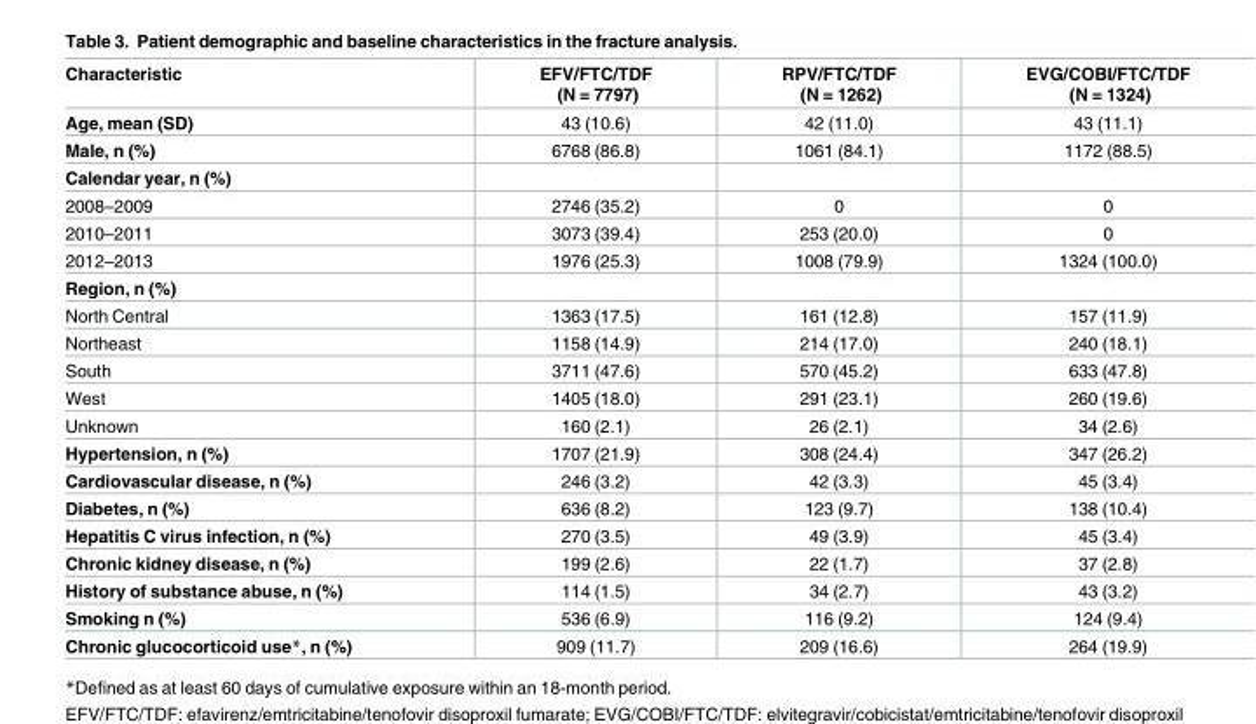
<table><thead><tr><td>Characteristic</td><td>EFV/FTC/TDF (N = 7797)</td><td>RPV/FTC/TDF (N = 1262)</td><td>EVG/COBI/FTC/TDF (N = 1324)</td></tr></thead><tbody><tr><td>Age, mean (SD)</td><td>43 (10.6)</td><td>42 (11.0)</td><td>43 (11.1)</td></tr><tr><td>Male, n (%)</td><td>6768 (86.8)</td><td>1061 (84.1)</td><td>1172 (88.5)</td></tr><tr><td colspan="4">Calendar year, n (%)</td></tr><tr><td>2008–2009</td><td>2746 (35.2)</td><td>0</td><td>0</td></tr><tr><td>2010–2011</td><td>3073 (39.4)</td><td>253 (20.0)</td><td>0</td></tr><tr><td>2012–2013</td><td>1976 (25.3)</td><td>1008 (79.9)</td><td>1324 (100.0)</td></tr><tr><td colspan="4">Region, n (%)</td></tr><tr><td>North Central</td><td>1363 (17.5)</td><td>161 (12.8)</td><td>157 (11.9)</td></tr><tr><td>Northeast</td><td>1158 (14.9)</td><td>214 (17.0)</td><td>240 (18.1)</td></tr><tr><td>South</td><td>3711 (47.6)</td><td>570 (45.2)</td><td>633 (47.8)</td></tr><tr><td>West</td><td>1405 (18.0)</td><td>291 (23.1)</td><td>260 (19.6)</td></tr><tr><td>Unknown</td><td>160 (2.1)</td><td>26 (2.1)</td><td>34 (2.6)</td></tr><tr><td>Hypertension, n (%)</td><td>1707 (21.9)</td><td>308 (24.4)</td><td>347 (26.2)</td></tr><tr><td>Cardiovascular disease, n (%)</td><td>246 (3.2)</td><td>42 (3.3)</td><td>45 (3.4)</td></tr><tr><td>Diabetes, n (%)</td><td>636 (8.2)</td><td>123 (9.7)</td><td>138 (10.4)</td></tr><tr><td>Hepatitis C virus infection, n (%)</td><td>270 (3.5)</td><td>49 (3.9)</td><td>45 (3.4)</td></tr><tr><td>Chronic kidney disease, n (%)</td><td>199 (2.6)</td><td>22 (1.7)</td><td>37 (2.8)</td></tr><tr><td>History of substance abuse, n (%)</td><td>114 (1.5)</td><td>34 (2.7)</td><td>43 (3.2)</td></tr><tr><td>Smoking n (%)</td><td>536 (6.9)</td><td>116 (9.2)</td><td>124 (9.4)</td></tr><tr><td>Chronic glucocorticoid use*, n (%)</td><td>909 (11.7)</td><td>209 (16.6)</td><td>264 (19.9)</td></tr></tbody></table>